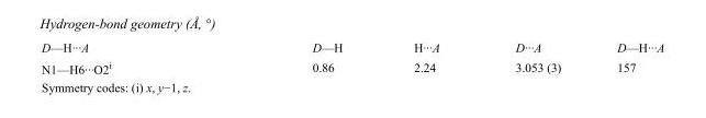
<table><tbody><tr><td>D—H···A</td><td>D—H</td><td>H···A</td><td>D···A</td><td>D—H···A</td></tr><tr><td>N1—H6···O2<sup>i</sup></td><td>0.86</td><td>2.24</td><td>3.053 (3)</td><td>157</td></tr></tbody></table>